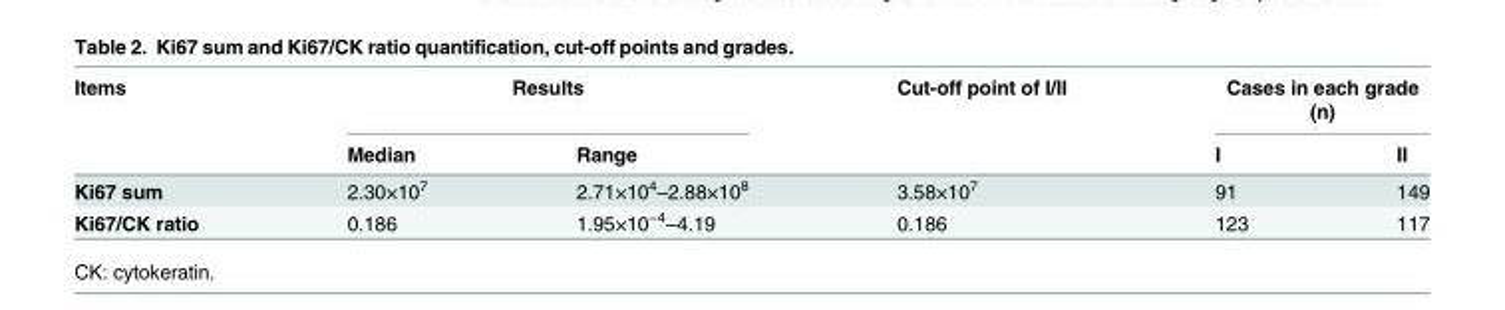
<table><thead><tr><td rowspan="2">Items</td><td colspan="2">Results</td><td rowspan="2">Cut-off point of I/II</td><td colspan="2">Cases in each grade (n)</td></tr><tr><td>Median</td><td>Range</td><td>I</td><td>II</td></tr></thead><tbody><tr><td>Ki67 sum</td><td>2.30×10<sup>7</sup></td><td>2.71×10<sup>4</sup>–2.88×10<sup>8</sup></td><td>3.58×10<sup>7</sup></td><td>91</td><td>149</td></tr><tr><td>Ki67/CK ratio</td><td>0.186</td><td>1.95×10<sup>−4</sup>–4.19</td><td>0.186</td><td>123</td><td>117</td></tr></tbody></table>